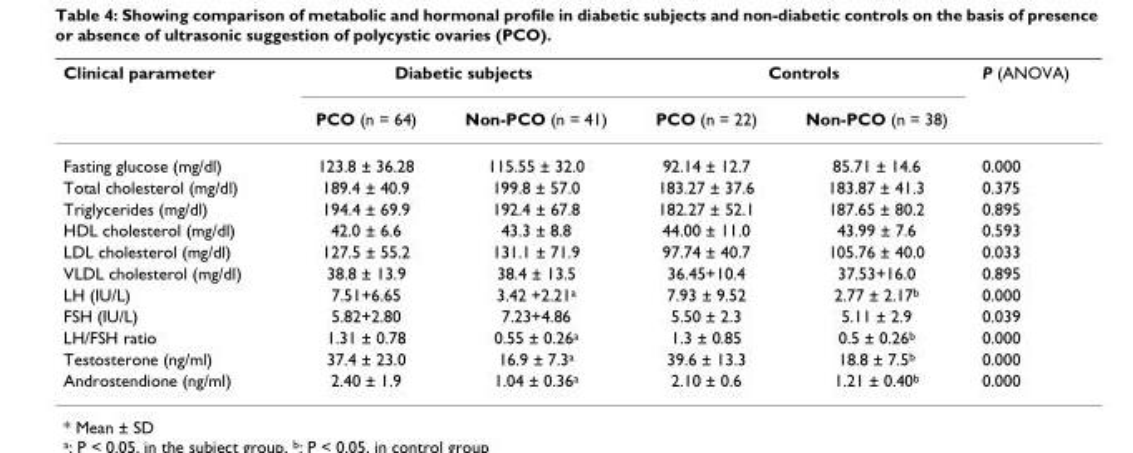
<table><thead><tr><td rowspan="2">Clinical parameter</td><td colspan="2">Diabetic subjects</td><td colspan="2">Controls</td><td rowspan="2">P (ANOVA)</td></tr><tr><td>PCO (n = 64)</td><td>Non-PCO (n = 41)</td><td>PCO (n = 22)</td><td>Non-PCO (n = 38)</td></tr></thead><tbody><tr><td>Fasting glucose (mg/dl)</td><td>123.8 ± 36.28</td><td>115.55 ± 32.0</td><td>92.14 ± 12.7</td><td>85.71 ± 14.6</td><td>0.000</td></tr><tr><td>Total cholesterol (mg/dl)</td><td>189.4 ± 40.9</td><td>199.8 ± 57.0</td><td>183.27 ± 37.6</td><td>183.87 ± 41.3</td><td>0.375</td></tr><tr><td>Triglycerides (mg/dl)</td><td>194.4 ± 69.9</td><td>192.4 ± 67.8</td><td>182.27 ± 52.1</td><td>187.65 ± 80.2</td><td>0.895</td></tr><tr><td>HDL cholesterol (mg/dl)</td><td>42.0 ± 6.6</td><td>43.3 ± 8.8</td><td>44.00 ± 11.0</td><td>43.99 ± 7.6</td><td>0.593</td></tr><tr><td>LDL cholesterol (mg/dl)</td><td>127.5 ± 55.2</td><td>131.1 ± 71.9</td><td>97.74 ± 40.7</td><td>105.76 ± 40.0</td><td>0.033</td></tr><tr><td>VLDL cholesterol (mg/dl)</td><td>38.8 ± 13.9</td><td>38.4 ± 13.5</td><td>36.45+10.4</td><td>37.53+16.0</td><td>0.895</td></tr><tr><td>LH (IU/L)</td><td>7.51+6.65</td><td>3.42 +2.21<sup>a</sup></td><td>7.93 ± 9.52</td><td>2.77 ± 2.17<sup>b</sup></td><td>0.000</td></tr><tr><td>FSH (IU/L)</td><td>5.82+2.80</td><td>7.23+4.86</td><td>5.50 ± 2.3</td><td>5.11 ± 2.9</td><td>0.039</td></tr><tr><td>LH/FSH ratio</td><td>1.31 ± 0.78</td><td>0.55 ± 0.26<sup>a</sup></td><td>1.3 ± 0.85</td><td>0.5 ± 0.26<sup>b</sup></td><td>0.000</td></tr><tr><td>Testosterone (ng/ml)</td><td>37.4 ± 23.0</td><td>16.9 ± 7.3<sup>a</sup></td><td>39.6 ± 13.3</td><td>18.8 ± 7.5<sup>b</sup></td><td>0.000</td></tr><tr><td>Androstendione (ng/ml)</td><td>2.40 ± 1.9</td><td>1.04 ± 0.36<sup>a</sup></td><td>2.10 ± 0.6</td><td>1.21 ± 0.40<sup>b</sup></td><td>0.000</td></tr></tbody></table>